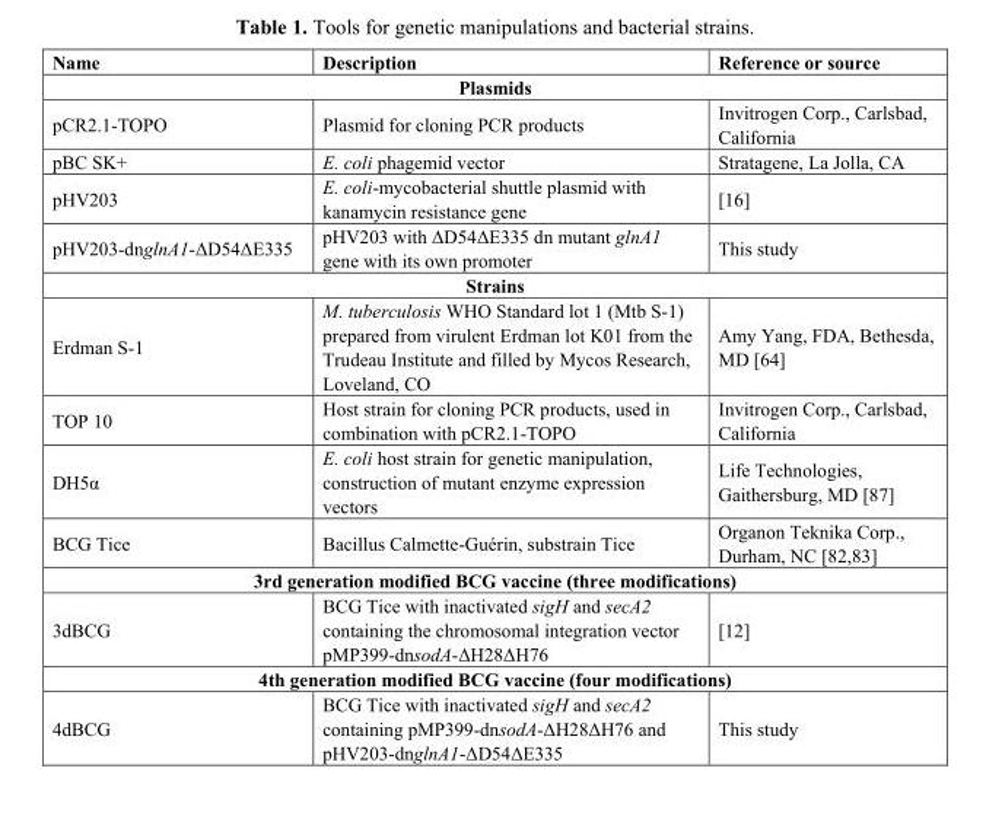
<table><thead><tr><td>Name</td><td>Description</td><td>Reference or source</td></tr></thead><tbody><tr><td colspan="3">Plasmids</td></tr><tr><td>pCR2.1-TOPO</td><td>Plasmid for cloning PCR products</td><td>Invitrogen Corp., Carlsbad, California</td></tr><tr><td>pBC SK+</td><td>E. coli phagemid vector</td><td>Stratagene, La Jolla, CA</td></tr><tr><td>pHV203</td><td>E. coli-mycobacterial shuttle plasmid with kanamycin resistance gene</td><td>[16]</td></tr><tr><td>pHV203-dnglnA1-ΔD54ΔE335</td><td>pHV203 with ΔD54ΔE335 dn mutant glnA1 gene with its own promoter</td><td>This study</td></tr><tr><td colspan="3">Strains</td></tr><tr><td>Erdman S-1</td><td>M. tuberculosis WHO Standard lot 1 (Mtb S-1) prepared from virulent Erdman lot K01 from the Trudeau Institute and filled by Mycos Research, Loveland, CO</td><td>Amy Yang, FDA, Bethesda, MD [64]</td></tr><tr><td>TOP 10</td><td>Host strain for cloning PCR products, used in combination with pCR2.1-TOPO</td><td>Invitrogen Corp., Carlsbad, California</td></tr><tr><td>DH5α</td><td>E. coli host strain for genetic manipulation, construction of mutant enzyme expression vectors</td><td>Life Technologies, Gaithersburg, MD [87]</td></tr><tr><td>BCG Tice</td><td>Bacillus Calmette-Guérin, substrain Tice</td><td>Organon Teknika Corp., Durham, NC [82,83]</td></tr><tr><td colspan="3">3rd generation modified BCG vaccine (three modifications)</td></tr><tr><td>3dBCG</td><td>BCG Tice with inactivated sigH and secA2 containing the chromosomal integration vector pMP399-dnsodA-ΔH28ΔH76</td><td>[12]</td></tr><tr><td colspan="3">4th generation modified BCG vaccine (four modifications)</td></tr><tr><td>4dBCG</td><td>BCG Tice with inactivated sigH and secA2 containing pMP399-dnsodA-ΔH28ΔH76 and pHV203-dnglnA1-ΔD54ΔE335</td><td>This study</td></tr></tbody></table>